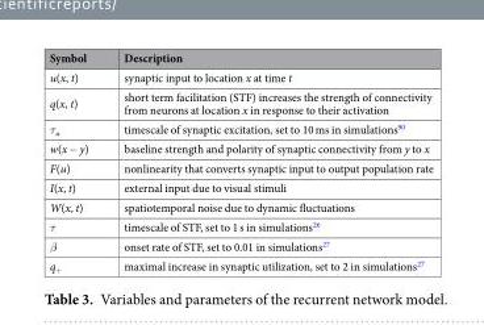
<table><thead><tr><td>Symbol</td><td>Description</td></tr></thead><tbody><tr><td>u(x, t)</td><td>synaptic input to location x at time t</td></tr><tr><td>q(x, t)</td><td>short term facilitation (STF) increases the strength of connectivity from neurons at location x in response to their activation</td></tr><tr><td>τ<sub>u</sub></td><td>timescale of synaptic excitation, set to 10 ms in simulations<sup>90</sup></td></tr><tr><td>w(x − y)</td><td>baseline strength and polarity of synaptic connectivity from y to x</td></tr><tr><td>F(u)</td><td>nonlinearity that converts synaptic input to output population rate</td></tr><tr><td>I(x, t)</td><td>external input due to visual stimuli</td></tr><tr><td>W(x, t)</td><td>spatiotemporal noise due to dynamic fluctuations</td></tr><tr><td>τ</td><td>timescale of STF, set to 1 s in simulations<sup>26</sup></td></tr><tr><td>β</td><td>onset rate of STF, set to 0.01 in simulations<sup>27</sup></td></tr><tr><td>q<sub>+</sub></td><td>maximal increase in synaptic utilization, set to 2 in simulations<sup>27</sup></td></tr></tbody></table>